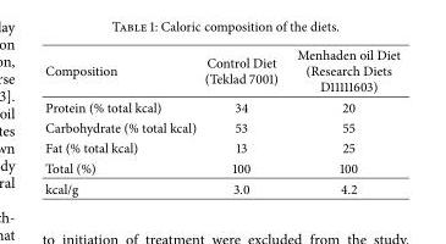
<table><thead><tr><td>Composition</td><td>Control Diet (Teklad 7001)</td><td>Menhaden oil Diet (Research Diets D11111603)</td></tr></thead><tbody><tr><td>Protein (% total kcal)</td><td>34</td><td>20</td></tr><tr><td>Carbohydrate (% total kcal)</td><td>53</td><td>55</td></tr><tr><td>Fat (% total kcal)</td><td>13</td><td>25</td></tr><tr><td>Total (%)</td><td>100</td><td>100</td></tr><tr><td>kcal/g</td><td>3.0</td><td>4.2</td></tr></tbody></table>